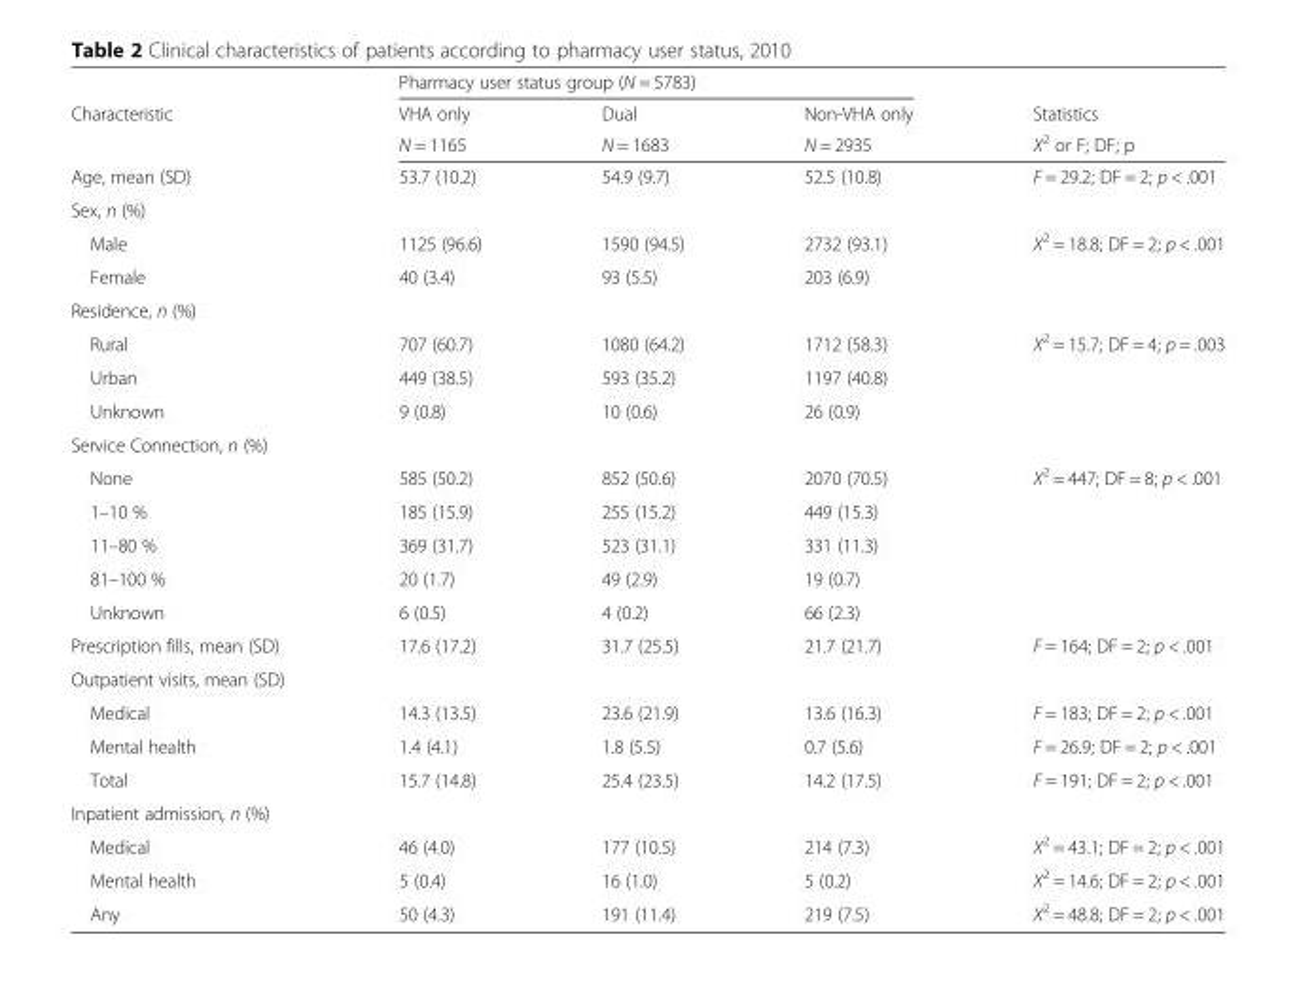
<table><thead><tr><td rowspan="3">Characteristic</td><td colspan="3">Pharmacy user status group (N = 5783)</td><td rowspan="3">Statistics X<sup>2</sup> or F; DF; p</td></tr><tr><td rowspan="2">VHA only N = 1165</td><td rowspan="2">Dual N = 1683</td><td rowspan="2">Non-VHA only N = 2935</td></tr><tr></tr></thead><tbody><tr><td>Age, mean (SD)</td><td>53.7 (10.2)</td><td>54.9 (9.7)</td><td>52.5 (10.8)</td><td>F = 29.2; DF = 2; p &lt; .001</td></tr><tr><td colspan="5">Sex, n (%)</td></tr><tr><td>Male</td><td>1125 (96.6)</td><td>1590 (94.5)</td><td>2732 (93.1)</td><td>X<sup>2</sup> = 18.8; DF = 2; p &lt; .001</td></tr><tr><td>Female</td><td>40 (3.4)</td><td>93 (5.5)</td><td>203 (6.9)</td><td></td></tr><tr><td colspan="5">Residence, n (%)</td></tr><tr><td>Rural</td><td>707 (60.7)</td><td>1080 (64.2)</td><td>1712 (58.3)</td><td>X<sup>2</sup> = 15.7; DF = 4; p = .003</td></tr><tr><td>Urban</td><td>449 (38.5)</td><td>593 (35.2)</td><td>1197 (40.8)</td><td></td></tr><tr><td>Unknown</td><td>9 (0.8)</td><td>10 (0.6)</td><td>26 (0.9)</td><td></td></tr><tr><td colspan="5">Service Connection, n (%)</td></tr><tr><td>None</td><td>585 (50.2)</td><td>852 (50.6)</td><td>2070 (70.5)</td><td>X<sup>2</sup> = 447; DF = 8; p &lt; .001</td></tr><tr><td>1–10 %</td><td>185 (15.9)</td><td>255 (15.2)</td><td>449 (15.3)</td><td></td></tr><tr><td>11–80 %</td><td>369 (31.7)</td><td>523 (31.1)</td><td>331 (11.3)</td><td></td></tr><tr><td>81–100 %</td><td>20 (1.7)</td><td>49 (2.9)</td><td>19 (0.7)</td><td></td></tr><tr><td>Unknown</td><td>6 (0.5)</td><td>4 (0.2)</td><td>66 (2.3)</td><td></td></tr><tr><td>Prescription fills, mean (SD)</td><td>17.6 (17.2)</td><td>31.7 (25.5)</td><td>21.7 (21.7)</td><td>F = 164; DF = 2; p &lt; .001</td></tr><tr><td colspan="5">Outpatient visits, mean (SD)</td></tr><tr><td>Medical</td><td>14.3 (13.5)</td><td>23.6 (21.9)</td><td>13.6 (16.3)</td><td>F = 183; DF = 2; p &lt; .001</td></tr><tr><td>Mental health</td><td>1.4 (4.1)</td><td>1.8 (5.5)</td><td>0.7 (5.6)</td><td>F = 26.9; DF = 2; p &lt; .001</td></tr><tr><td>Total</td><td>15.7 (14.8)</td><td>25.4 (23.5)</td><td>14.2 (17.5)</td><td>F = 191; DF = 2; p &lt; .001</td></tr><tr><td colspan="5">Inpatient admission, n (%)</td></tr><tr><td>Medical</td><td>46 (4.0)</td><td>177 (10.5)</td><td>214 (7.3)</td><td>X<sup>2</sup> = 43.1; DF = 2; p &lt; .001</td></tr><tr><td>Mental health</td><td>5 (0.4)</td><td>16 (1.0)</td><td>5 (0.2)</td><td>X<sup>2</sup> = 14.6; DF = 2; p &lt; .001</td></tr><tr><td>Any</td><td>50 (4.3)</td><td>191 (11.4)</td><td>219 (7.5)</td><td>X<sup>2</sup> = 48.8; DF = 2; p &lt; .001</td></tr></tbody></table>